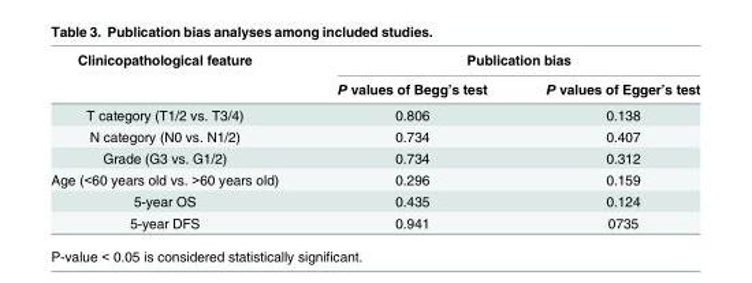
<table><thead><tr><td rowspan="2">Clinicopathological feature</td><td colspan="2">Publication bias</td></tr><tr><td>P values of Begg’s test</td><td>P values of Egger’s test</td></tr></thead><tbody><tr><td>T category (T1/2 vs. T3/4)</td><td>0.806</td><td>0.138</td></tr><tr><td>N category (N0 vs. N1/2)</td><td>0.734</td><td>0.407</td></tr><tr><td>Grade (G3 vs. G1/2)</td><td>0.734</td><td>0.312</td></tr><tr><td>Age (&lt;60 years old vs. &gt;60 years old)</td><td>0.296</td><td>0.159</td></tr><tr><td>5-year OS</td><td>0.435</td><td>0.124</td></tr><tr><td>5-year DFS</td><td>0.941</td><td>0735</td></tr></tbody></table>